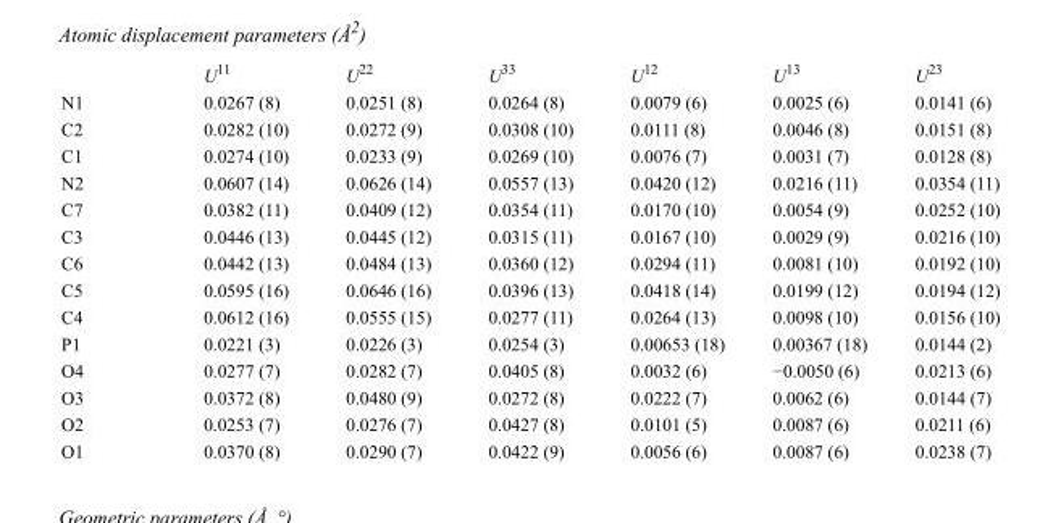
<table><thead><tr><td></td><td>U<sup>11</sup></td><td>U<sup>22</sup></td><td>U<sup>33</sup></td><td>U<sup>12</sup></td><td>U<sup>13</sup></td><td>U<sup>23</sup></td></tr></thead><tbody><tr><td>N1</td><td>0.0267 (8)</td><td>0.0251 (8)</td><td>0.0264 (8)</td><td>0.0079 (6)</td><td>0.0025 (6)</td><td>0.0141 (6)</td></tr><tr><td>C2</td><td>0.0282 (10)</td><td>0.0272 (9)</td><td>0.0308 (10)</td><td>0.0111 (8)</td><td>0.0046 (8)</td><td>0.0151 (8)</td></tr><tr><td>C1</td><td>0.0274 (10)</td><td>0.0233 (9)</td><td>0.0269 (10)</td><td>0.0076 (7)</td><td>0.0031 (7)</td><td>0.0128 (8)</td></tr><tr><td>N2</td><td>0.0607 (14)</td><td>0.0626 (14)</td><td>0.0557 (13)</td><td>0.0420 (12)</td><td>0.0216 (11)</td><td>0.0354 (11)</td></tr><tr><td>C7</td><td>0.0382 (11)</td><td>0.0409 (12)</td><td>0.0354 (11)</td><td>0.0170 (10)</td><td>0.0054 (9)</td><td>0.0252 (10)</td></tr><tr><td>C3</td><td>0.0446 (13)</td><td>0.0445 (12)</td><td>0.0315 (11)</td><td>0.0167 (10)</td><td>0.0029 (9)</td><td>0.0216 (10)</td></tr><tr><td>C6</td><td>0.0442 (13)</td><td>0.0484 (13)</td><td>0.0360 (12)</td><td>0.0294 (11)</td><td>0.0081 (10)</td><td>0.0192 (10)</td></tr><tr><td>C5</td><td>0.0595 (16)</td><td>0.0646 (16)</td><td>0.0396 (13)</td><td>0.0418 (14)</td><td>0.0199 (12)</td><td>0.0194 (12)</td></tr><tr><td>C4</td><td>0.0612 (16)</td><td>0.0555 (15)</td><td>0.0277 (11)</td><td>0.0264 (13)</td><td>0.0098 (10)</td><td>0.0156 (10)</td></tr><tr><td>P1</td><td>0.0221 (3)</td><td>0.0226 (3)</td><td>0.0254 (3)</td><td>0.00653 (18)</td><td>0.00367 (18)</td><td>0.0144 (2)</td></tr><tr><td>O4</td><td>0.0277 (7)</td><td>0.0282 (7)</td><td>0.0405 (8)</td><td>0.0032 (6)</td><td>−0.0050 (6)</td><td>0.0213 (6)</td></tr><tr><td>O3</td><td>0.0372 (8)</td><td>0.0480 (9)</td><td>0.0272 (8)</td><td>0.0222 (7)</td><td>0.0062 (6)</td><td>0.0144 (7)</td></tr><tr><td>O2</td><td>0.0253 (7)</td><td>0.0276 (7)</td><td>0.0427 (8)</td><td>0.0101 (5)</td><td>0.0087 (6)</td><td>0.0211 (6)</td></tr><tr><td>O1</td><td>0.0370 (8)</td><td>0.0290 (7)</td><td>0.0422 (9)</td><td>0.0056 (6)</td><td>0.0087 (6)</td><td>0.0238 (7)</td></tr></tbody></table>